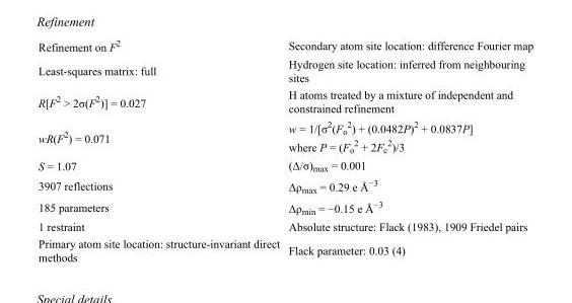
<table><tbody><tr><td>Refinement on F<sup>2</sup></td><td>Secondary atom site location: difference Fourier map</td></tr><tr><td>Least-squares matrix: full</td><td>Hydrogen site location: inferred from neighbouring sites</td></tr><tr><td>R[F<sup>2</sup> &gt; 2σ(F<sup>2</sup>)] = 0.027</td><td>H atoms treated by a mixture of independent and constrained refinement</td></tr><tr><td>wR(F<sup>2</sup>) = 0.071</td><td>w = 1/[σ<sup>2</sup>(F<sub>o</sub> <sup>2</sup>) + (0.0482P)<sup>2</sup> + 0.0837P] where P = (F<sub>o</sub> <sup>2</sup> + 2F<sub>c</sub> <sup>2</sup>)/3</td></tr><tr><td>S = 1.07</td><td>(Δ/σ)<sub>max</sub> = 0.001</td></tr><tr><td>3907 reflections</td><td>Δρ<sub>max</sub> = 0.29 e Å<sup>−3</sup></td></tr><tr><td>185 parameters</td><td>Δρ<sub>min</sub> = −0.15 e Å<sup>−3</sup></td></tr><tr><td>1 restraint</td><td>Absolute structure: Flack (1983), 1909 Friedel pairs</td></tr><tr><td>Primary atom site location: structure-invariant direct methods</td><td>Flack parameter: 0.03 (4)</td></tr></tbody></table>